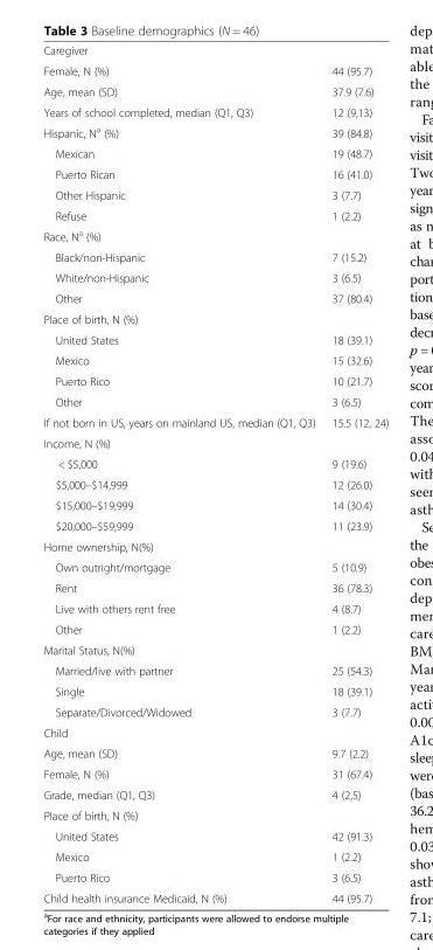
<table><tbody><tr><td colspan="2">Caregiver</td></tr><tr><td>Female, N (%)</td><td>44 (95.7)</td></tr><tr><td>Age, mean (SD)</td><td>37.9 (7.6)</td></tr><tr><td>Years of school completed, median (Q1, Q3)</td><td>12 (9,13)</td></tr><tr><td>Hispanic, N<sup>a</sup> (%)</td><td>39 (84.8)</td></tr><tr><td>Mexican</td><td>19 (48.7)</td></tr><tr><td>Puerto Rican</td><td>16 (41.0)</td></tr><tr><td>Other Hispanic</td><td>3 (7.7)</td></tr><tr><td>Refuse</td><td>1 (2.2)</td></tr><tr><td colspan="2">Race, N<sup>a</sup> (%)</td></tr><tr><td>Black/non-Hispanic</td><td>7 (15.2)</td></tr><tr><td>White/non-Hispanic</td><td>3 (6.5)</td></tr><tr><td>Other</td><td>37 (80.4)</td></tr><tr><td colspan="2">Place of birth, N (%)</td></tr><tr><td>United States</td><td>18 (39.1)</td></tr><tr><td>Mexico</td><td>15 (32.6)</td></tr><tr><td>Puerto Rico</td><td>10 (21.7)</td></tr><tr><td>Other</td><td>3 (6.5)</td></tr><tr><td>If not born in US, years on mainland US, median (Q1, Q3)</td><td>15.5 (12, 24)</td></tr><tr><td colspan="2">Income, N (%)</td></tr><tr><td>&lt; $5,000</td><td>9 (19.6)</td></tr><tr><td>$5,000–$14,999</td><td>12 (26.0)</td></tr><tr><td>$15,000–$19,999</td><td>14 (30.4)</td></tr><tr><td>$20,000–$59,999</td><td>11 (23.9)</td></tr><tr><td colspan="2">Home ownership, N(%)</td></tr><tr><td>Own outright/mortgage</td><td>5 (10.9)</td></tr><tr><td>Rent</td><td>36 (78.3)</td></tr><tr><td>Live with others rent free</td><td>4 (8.7)</td></tr><tr><td>Other</td><td>1 (2.2)</td></tr><tr><td colspan="2">Marital Status, N(%)</td></tr><tr><td>Married/live with partner</td><td>25 (54.3)</td></tr><tr><td>Single</td><td>18 (39.1)</td></tr><tr><td>Separate/Divorced/Widowed</td><td>3 (7.7)</td></tr><tr><td colspan="2">Child</td></tr><tr><td>Age, mean (SD)</td><td>9.7 (2.2)</td></tr><tr><td>Female, N (%)</td><td>31 (67.4)</td></tr><tr><td>Grade, median (Q1, Q3)</td><td>4 (2,5)</td></tr><tr><td colspan="2">Place of birth, N (%)</td></tr><tr><td>United States</td><td>42 (91.3)</td></tr><tr><td>Mexico</td><td>1 (2.2)</td></tr><tr><td>Puerto Rico</td><td>3 (6.5)</td></tr><tr><td>Child health insurance Medicaid, N (%)</td><td>44 (95.7)</td></tr></tbody></table>